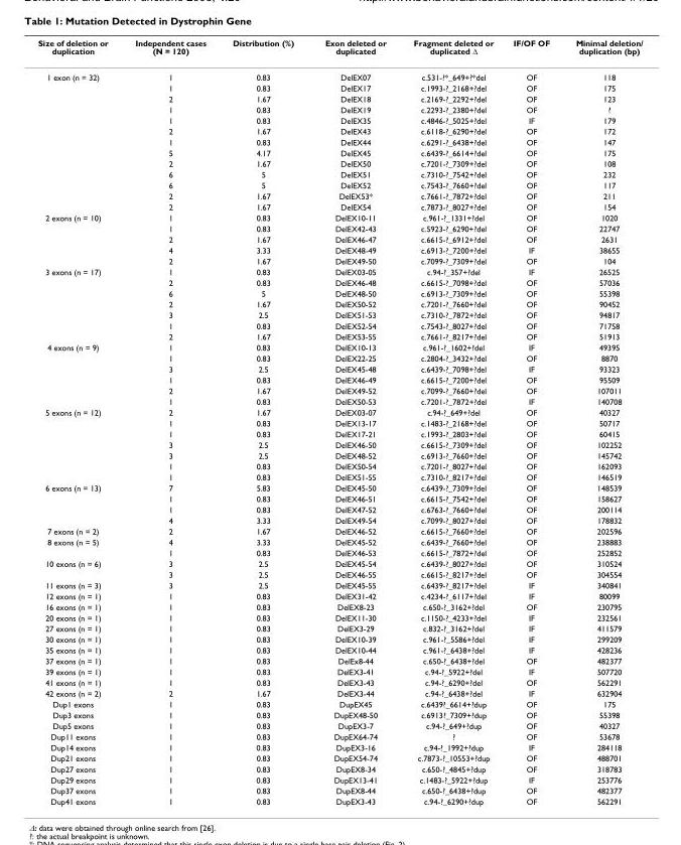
<table><thead><tr><td>Size of deletion or duplication</td><td>Independent cases (N = 120)</td><td>Distribution (%)</td><td>Exon deleted or duplicated</td><td>Fragment deleted or duplicated ∆</td><td>IF/OF OF</td><td>Minimal deletion/ duplication (bp)</td></tr></thead><tbody><tr><td rowspan="13">1 exon (n = 32)</td><td>1</td><td>0.83</td><td>DelEX07</td><td>c.531-?*_649+?*del</td><td>OF</td><td>118</td></tr><tr><td>1</td><td>0.83</td><td>DelEX17</td><td>c.1993-?_2168+?del</td><td>OF</td><td>175</td></tr><tr><td>2</td><td>1.67</td><td>DelEX18</td><td>c.2169-?_2292+?del</td><td>OF</td><td>123</td></tr><tr><td>1</td><td>0.83</td><td>DelEX19</td><td>c.2293-?_2380+?del</td><td>OF</td><td>?</td></tr><tr><td>1</td><td>0.83</td><td>DelEX35</td><td>c.4846-?_5025+?del</td><td>IF</td><td>179</td></tr><tr><td>2</td><td>1.67</td><td>DelEX43</td><td>c.6118-?_6290+?del</td><td>OF</td><td>172</td></tr><tr><td>1</td><td>0.83</td><td>DelEX44</td><td>c.6291-?_6438+?del</td><td>OF</td><td>147</td></tr><tr><td>5</td><td>4.17</td><td>DelEX45</td><td>c.6439-?_6614+?del</td><td>OF</td><td>175</td></tr><tr><td>2</td><td>1.67</td><td>DelEX50</td><td>c.7201-?_7309+?del</td><td>OF</td><td>108</td></tr><tr><td>6</td><td>5</td><td>DelEX51</td><td>c.7310-?_7542+?del</td><td>OF</td><td>232</td></tr><tr><td>6</td><td>5</td><td>DelEX52</td><td>c.7543-?_7660+?del</td><td>OF</td><td>117</td></tr><tr><td>2</td><td>1.67</td><td>DelEX53*</td><td>c.7661-?_7872+?del</td><td>OF</td><td>211</td></tr><tr><td>2</td><td>1.67</td><td>DelEX54</td><td>c.7873-?_8027+?del</td><td>OF</td><td>154</td></tr><tr><td rowspan="5">2 exons (n = 10)</td><td>1</td><td>0.83</td><td>DelEX10-11</td><td>c.961-?_1331+?del</td><td>OF</td><td>1020</td></tr><tr><td>1</td><td>0.83</td><td>DelEX42-43</td><td>c.5923-?_6290+?del</td><td>OF</td><td>22747</td></tr><tr><td>2</td><td>1.67</td><td>DelEX46-47</td><td>c.6615-?_6912+?del</td><td>OF</td><td>2631</td></tr><tr><td>4</td><td>3.33</td><td>DelEX48-49</td><td>c.6913-?_7200+?del</td><td>IF</td><td>38655</td></tr><tr><td>2</td><td>1.67</td><td>DelEX49-50</td><td>c.7099-?_7309+?del</td><td>OF</td><td>104</td></tr><tr><td rowspan="7">3 exons (n = 17)</td><td>1</td><td>0.83</td><td>DelEX03-05</td><td>c.94-?_357+?del</td><td>IF</td><td>26525</td></tr><tr><td>2</td><td>0.83</td><td>DelEX46-48</td><td>c.6615-?_7098+?del</td><td>OF</td><td>57036</td></tr><tr><td>6</td><td>5</td><td>DelEX48-50</td><td>c.6913-?_7309+?del</td><td>OF</td><td>55398</td></tr><tr><td>2</td><td>1.67</td><td>DelEX50-52</td><td>c.7201-?_7660+?del</td><td>OF</td><td>90452</td></tr><tr><td>3</td><td>2.5</td><td>DelEX51-53</td><td>c.7310-?_7872+?del</td><td>OF</td><td>94817</td></tr><tr><td>1</td><td>0.83</td><td>DelEX52-54</td><td>c.7543-?_8027+?del</td><td>OF</td><td>71758</td></tr><tr><td>2</td><td>1.67</td><td>DelEX53-55</td><td>c.7661-?_8217+?del</td><td>OF</td><td>51913</td></tr><tr><td rowspan="6">4 exons (n = 9)</td><td>1</td><td>0.83</td><td>DelEX10-13</td><td>c.961-?_1602+?del</td><td>IF</td><td>49395</td></tr><tr><td>1</td><td>0.83</td><td>DelEX22-25</td><td>c.2804-?_3432+?del</td><td>OF</td><td>8870</td></tr><tr><td>3</td><td>2.5</td><td>DelEX45-48</td><td>c.6439-?_7098+?del</td><td>IF</td><td>93323</td></tr><tr><td>1</td><td>0.83</td><td>DelEX46-49</td><td>c.6615-?_7200+?del</td><td>OF</td><td>95509</td></tr><tr><td>2</td><td>1.67</td><td>DelEX49-52</td><td>c.7099-?_7660+?del</td><td>OF</td><td>107011</td></tr><tr><td>1</td><td>0.83</td><td>DelEX50-53</td><td>c.7201-?_7872+?del</td><td>IF</td><td>140708</td></tr><tr><td rowspan="7">5 exons (n = 12)</td><td>2</td><td>1.67</td><td>DelEX03-07</td><td>c.94-?_649+?del</td><td>OF</td><td>40327</td></tr><tr><td>1</td><td>0.83</td><td>DelEX13-17</td><td>c.1483-?_2168+?del</td><td>OF</td><td>50717</td></tr><tr><td>1</td><td>0.83</td><td>DelEX17-21</td><td>c.1993-?_2803+?del</td><td>OF</td><td>60415</td></tr><tr><td>3</td><td>2.5</td><td>DelEX46-50</td><td>c.6615-?_7309+?del</td><td>OF</td><td>102252</td></tr><tr><td>3</td><td>2.5</td><td>DelEX48-52</td><td>c.6913-?_7660+?del</td><td>OF</td><td>145742</td></tr><tr><td>1</td><td>0.83</td><td>DelEX50-54</td><td>c.7201-?_8027+?del</td><td>OF</td><td>162093</td></tr><tr><td>1</td><td>0.83</td><td>DelEX51-55</td><td>c.7310-?_8217+?del</td><td>OF</td><td>146519</td></tr><tr><td rowspan="4">6 exons (n = 13)</td><td>7</td><td>5.83</td><td>DelEX45-50</td><td>c.6439-?_7309+?del</td><td>OF</td><td>148539</td></tr><tr><td>1</td><td>0.83</td><td>DelEX46-51</td><td>c.6615-?_7542+?del</td><td>OF</td><td>158627</td></tr><tr><td>1</td><td>0.83</td><td>DelEX47-52</td><td>c.6763-?_7660+?del</td><td>OF</td><td>200114</td></tr><tr><td>4</td><td>3.33</td><td>DelEX49-54</td><td>c.7099-?_8027+?del</td><td>OF</td><td>178832</td></tr><tr><td>7 exons (n = 2)</td><td>2</td><td>1.67</td><td>DelEX46-52</td><td>c.6615-?_7660+?del</td><td>OF</td><td>202596</td></tr><tr><td rowspan="2">8 exons (n = 5)</td><td>4</td><td>3.33</td><td>DelEX45-52</td><td>c.6439-?_7660+?del</td><td>OF</td><td>238883</td></tr><tr><td>1</td><td>0.83</td><td>DelEX46-53</td><td>c.6615-?_7872+?del</td><td>OF</td><td>252852</td></tr><tr><td rowspan="2">10 exons (n = 6)</td><td>3</td><td>2.5</td><td>DelEX45-54</td><td>c.6439-?_8027+?del</td><td>OF</td><td>310524</td></tr><tr><td>3</td><td>2.5</td><td>DelEX46-55</td><td>c.6615-?_8217+?del</td><td>OF</td><td>304554</td></tr><tr><td>11 exons (n = 3)</td><td>3</td><td>2.5</td><td>DelEX45-55</td><td>c.6439-?_8217+?del</td><td>IF</td><td>340841</td></tr><tr><td>12 exons (n = 1)</td><td>1</td><td>0.83</td><td>DelEX31-42</td><td>c.4234-?_6117+?del</td><td>IF</td><td>80099</td></tr><tr><td>16 exons (n = 1)</td><td>1</td><td>0.83</td><td>DelEX8-23</td><td>c.650-?_3162+?del</td><td>OF</td><td>230795</td></tr><tr><td>20 exons (n = 1)</td><td>1</td><td>0.83</td><td>DelEX11-30</td><td>c.1150-?_4233+?del</td><td>IF</td><td>232561</td></tr><tr><td>27 exons (n = 1)</td><td>1</td><td>0.83</td><td>DelEX3-29</td><td>c.832-?_3162+?del</td><td>IF</td><td>411579</td></tr><tr><td>30 exons (n = 1)</td><td>1</td><td>0.83</td><td>DelEX10-39</td><td>c.961-?_5586+?del</td><td>IF</td><td>299209</td></tr><tr><td>35 exons (n = 1)</td><td>1</td><td>0.83</td><td>DelEX10-44</td><td>c.961-?_6438+?del</td><td>IF</td><td>428236</td></tr><tr><td>37 exons (n = 1)</td><td>1</td><td>0.83</td><td>DelEx8-44</td><td>c.650-?_6438+?del</td><td>OF</td><td>482377</td></tr><tr><td>39 exons (n = 1)</td><td>1</td><td>0.83</td><td>DelEX3-41</td><td>c.94-?_5922+?del</td><td>IF</td><td>507720</td></tr><tr><td>41 exons (n = 1)</td><td>1</td><td>0.83</td><td>DelEX3-43</td><td>c.94-?_6290+?del</td><td>OF</td><td>562291</td></tr><tr><td>42 exons (n = 2)</td><td>2</td><td>1.67</td><td>DelEX3-44</td><td>c.94-?_6438+?del</td><td>IF</td><td>632904</td></tr><tr><td>Dup1 exons</td><td>1</td><td>0.83</td><td>DupEX45</td><td>c.6439?_6614+?dup</td><td>OF</td><td>175</td></tr><tr><td>Dup3 exons</td><td>1</td><td>0.83</td><td>DupEX48-50</td><td>c.6913?_7309+?dup</td><td>OF</td><td>55398</td></tr><tr><td>Dup5 exons</td><td>1</td><td>0.83</td><td>DupEX3-7</td><td>c.94-?_649+?dup</td><td>OF</td><td>40327</td></tr><tr><td>Dup11 exons</td><td>1</td><td>0.83</td><td>DupEX64-74</td><td>?</td><td>OF</td><td>53678</td></tr><tr><td>Dup14 exons</td><td>1</td><td>0.83</td><td>DupEX3-16</td><td>c.94-?_1992+?dup</td><td>IF</td><td>284118</td></tr><tr><td>Dup21 exons</td><td>1</td><td>0.83</td><td>DupEX54-74</td><td>c.7873-?_10553+?dup</td><td>OF</td><td>488701</td></tr><tr><td>Dup27 exons</td><td>1</td><td>0.83</td><td>DupEX8-34</td><td>c.650-?_4845+?dup</td><td>OF</td><td>318783</td></tr><tr><td>Dup29 exons</td><td>1</td><td>0.83</td><td>DupEX13-41</td><td>c.1483-?_5922+?dup</td><td>IF</td><td>253776</td></tr><tr><td>Dup37 exons</td><td>1</td><td>0.83</td><td>DupEX8-44</td><td>c.650-?_6438+?dup</td><td>OF</td><td>482377</td></tr><tr><td>Dup41 exons</td><td>1</td><td>0.83</td><td>DupEX3-43</td><td>c.94-?_6290+?dup</td><td>OF</td><td>562291</td></tr></tbody></table>